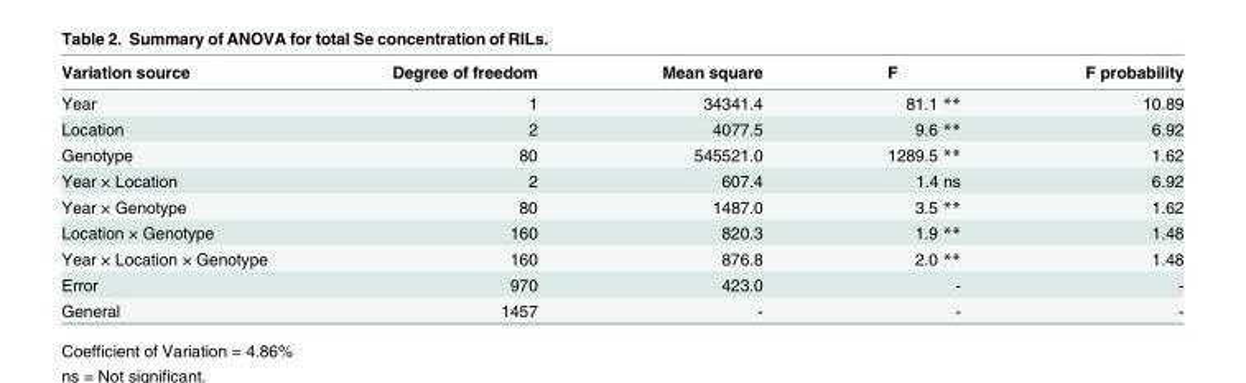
<table><thead><tr><td>Variation source</td><td>Degree of freedom</td><td>Mean square</td><td>F</td><td>F probability</td></tr></thead><tbody><tr><td>Year</td><td>1</td><td>34341.4</td><td>81.1 **</td><td>10.89</td></tr><tr><td>Location</td><td>2</td><td>4077.5</td><td>9.6 **</td><td>6.92</td></tr><tr><td>Genotype</td><td>80</td><td>545521.0</td><td>1289.5 **</td><td>1.62</td></tr><tr><td>Year × Location</td><td>2</td><td>607.4</td><td>1.4 ns</td><td>6.92</td></tr><tr><td>Year × Genotype</td><td>80</td><td>1487.0</td><td>3.5 **</td><td>1.62</td></tr><tr><td>Location × Genotype</td><td>160</td><td>820.3</td><td>1.9 **</td><td>1.48</td></tr><tr><td>Year × Location × Genotype</td><td>160</td><td>876.8</td><td>2.0 **</td><td>1.48</td></tr><tr><td>Error</td><td>970</td><td>423.0</td><td>-</td><td>-</td></tr><tr><td>General</td><td>1457</td><td>-</td><td>-</td><td>-</td></tr></tbody></table>